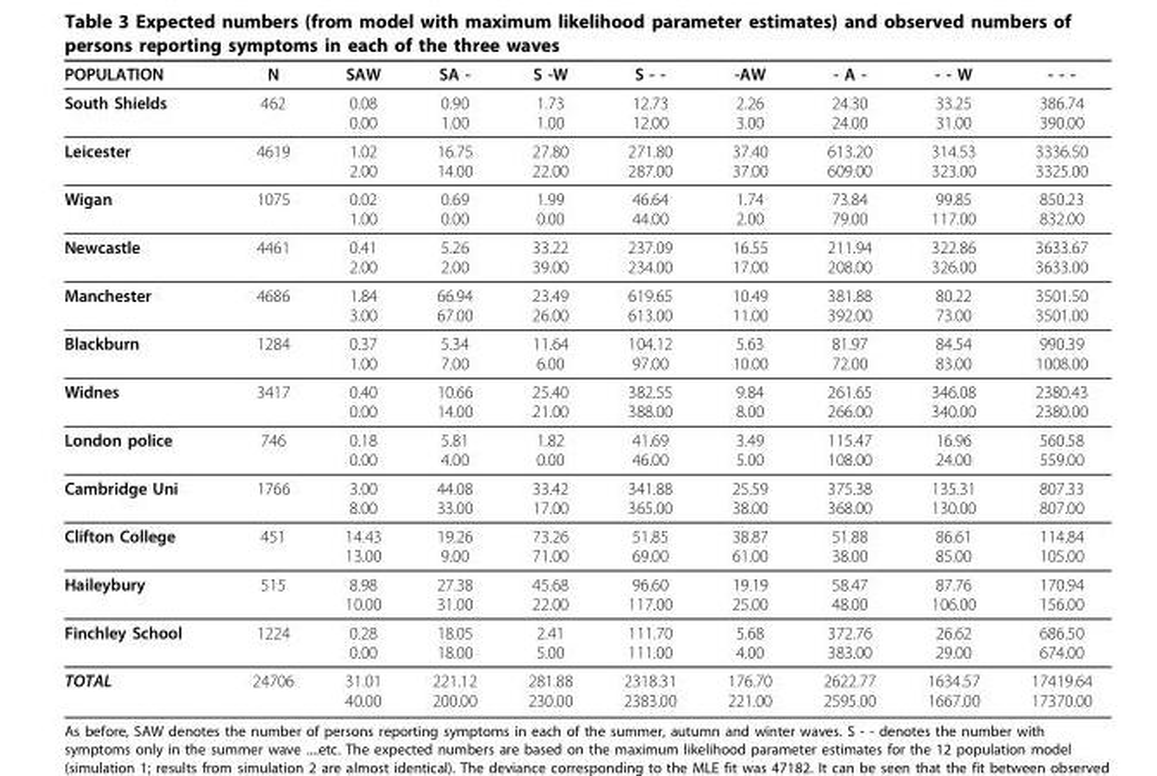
<table><thead><tr><td>POPULATION</td><td>N</td><td>SAW</td><td>SA -</td><td>S -W</td><td>S - -</td><td>-AW</td><td>- A -</td><td>- - W</td><td>- - -</td></tr></thead><tbody><tr><td>South Shields</td><td>462</td><td>0.08 0.00</td><td>0.90 1.00</td><td>1.73 1.00</td><td>12.73 12.00</td><td>2.26 3.00</td><td>24.30 24.00</td><td>33.25 31.00</td><td>386.74 390.00</td></tr><tr><td>Leicester</td><td>4619</td><td>1.02 2.00</td><td>16.75 14.00</td><td>27.80 22.00</td><td>271.80 287.00</td><td>37.40 37.00</td><td>613.20 609.00</td><td>314.53 323.00</td><td>3336.50 3325.00</td></tr><tr><td>Wigan</td><td>1075</td><td>0.02 1.00</td><td>0.69 0.00</td><td>1.99 0.00</td><td>46.64 44.00</td><td>1.74 2.00</td><td>73.84 79.00</td><td>99.85 117.00</td><td>850.23 832.00</td></tr><tr><td>Newcastle</td><td>4461</td><td>0.41 2.00</td><td>5.26 2.00</td><td>33.22 39.00</td><td>237.09 234.00</td><td>16.55 17.00</td><td>211.94 208.00</td><td>322.86 326.00</td><td>3633.67 3633.00</td></tr><tr><td>Manchester</td><td>4686</td><td>1.84 3.00</td><td>66.94 67.00</td><td>23.49 26.00</td><td>619.65 613.00</td><td>10.49 11.00</td><td>381.88 392.00</td><td>80.22 73.00</td><td>3501.50 3501.00</td></tr><tr><td>Blackburn</td><td>1284</td><td>0.37 1.00</td><td>5.34 7.00</td><td>11.64 6.00</td><td>104.12 97.00</td><td>5.63 10.00</td><td>81.97 72.00</td><td>84.54 83.00</td><td>990.39 1008.00</td></tr><tr><td>Widnes</td><td>3417</td><td>0.40 0.00</td><td>10.66 14.00</td><td>25.40 21.00</td><td>382.55 388.00</td><td>9.84 8.00</td><td>261.65 266.00</td><td>346.08 340.00</td><td>2380.43 2380.00</td></tr><tr><td>London police</td><td>746</td><td>0.18 0.00</td><td>5.81 4.00</td><td>1.82 0.00</td><td>41.69 46.00</td><td>3.49 5.00</td><td>115.47 108.00</td><td>16.96 24.00</td><td>560.58 559.00</td></tr><tr><td>Cambridge Uni</td><td>1766</td><td>3.00 8.00</td><td>44.08 33.00</td><td>33.42 17.00</td><td>341.88 365.00</td><td>25.59 38.00</td><td>375.38 368.00</td><td>135.31 130.00</td><td>807.33 807.00</td></tr><tr><td>Clifton College</td><td>451</td><td>14.43 13.00</td><td>19.26 9.00</td><td>73.26 71.00</td><td>51.85 69.00</td><td>38.87 61.00</td><td>51.88 38.00</td><td>86.61 85.00</td><td>114.84 105.00</td></tr><tr><td>Haileybury</td><td>515</td><td>8.98 10.00</td><td>27.38 31.00</td><td>45.68 22.00</td><td>96.60 117.00</td><td>19.19 25.00</td><td>58.47 48.00</td><td>87.76 106.00</td><td>170.94 156.00</td></tr><tr><td>Finchley School</td><td>1224</td><td>0.28 0.00</td><td>18.05 18.00</td><td>2.41 5.00</td><td>111.70 111.00</td><td>5.68 4.00</td><td>372.76 383.00</td><td>26.62 29.00</td><td>686.50 674.00</td></tr><tr><td>TOTAL</td><td>24706</td><td>31.01 40.00</td><td>221.12 200.00</td><td>281.88 230.00</td><td>2318.31 2383.00</td><td>176.70 221.00</td><td>2622.77 2595.00</td><td>1634.57 1667.00</td><td>17419.64 17370.00</td></tr></tbody></table>